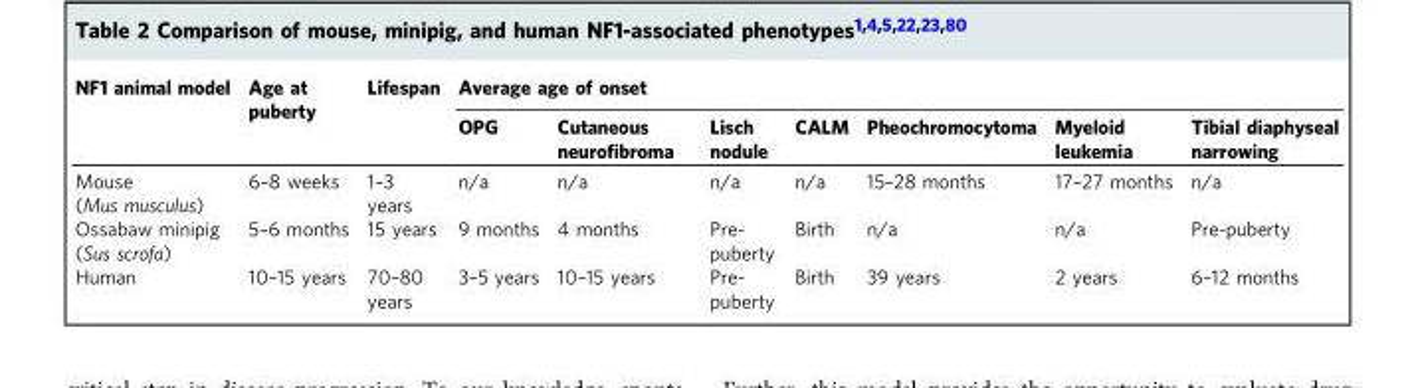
<table><thead><tr><td rowspan="2">NF1 animal model</td><td rowspan="2">Age at puberty</td><td rowspan="2">Lifespan</td><td colspan="7">Average age of onset</td></tr><tr><td>OPG</td><td>Cutaneous neurofibroma</td><td>Lisch nodule</td><td>CALM</td><td>Pheochromocytoma</td><td>Myeloid leukemia</td><td>Tibial diaphyseal narrowing</td></tr></thead><tbody><tr><td>Mouse (Mus musculus)</td><td>6–8 weeks</td><td>1–3 years</td><td>n/a</td><td>n/a</td><td>n/a</td><td>n/a</td><td>15–28 months</td><td>17–27 months</td><td>n/a</td></tr><tr><td>Ossabaw minipig (Sus scrofa)</td><td>5–6 months</td><td>15 years</td><td>9 months</td><td>4 months</td><td>Pre- puberty</td><td>Birth</td><td>n/a</td><td>n/a</td><td>Pre-puberty</td></tr><tr><td>Human</td><td>10–15 years</td><td>70–80 years</td><td>3–5 years</td><td>10–15 years</td><td>Pre- puberty</td><td>Birth</td><td>39 years</td><td>2 years</td><td>6–12 months</td></tr></tbody></table>